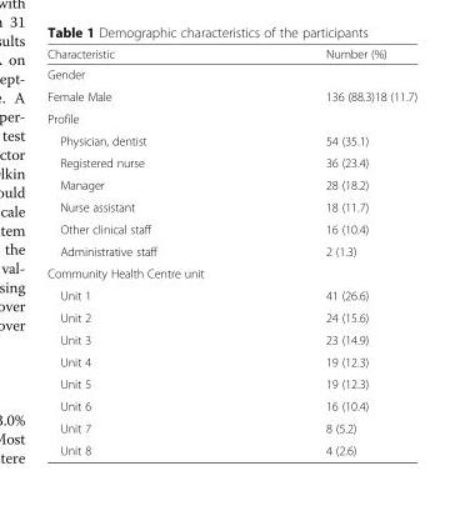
<table><thead><tr><td>Characteristic</td><td>Number (%)</td></tr></thead><tbody><tr><td colspan="2">Gender</td></tr><tr><td>Female Male</td><td>136 (88.3)18 (11.7)</td></tr><tr><td colspan="2">Profile</td></tr><tr><td>Physician, dentist</td><td>54 (35.1)</td></tr><tr><td>Registered nurse</td><td>36 (23.4)</td></tr><tr><td>Manager</td><td>28 (18.2)</td></tr><tr><td>Nurse assistant</td><td>18 (11.7)</td></tr><tr><td>Other clinical staff</td><td>16 (10.4)</td></tr><tr><td>Administrative staff</td><td>2 (1.3)</td></tr><tr><td colspan="2">Community Health Centre unit</td></tr><tr><td>Unit 1</td><td>41 (26.6)</td></tr><tr><td>Unit 2</td><td>24 (15.6)</td></tr><tr><td>Unit 3</td><td>23 (14.9)</td></tr><tr><td>Unit 4</td><td>19 (12.3)</td></tr><tr><td>Unit 5</td><td>19 (12.3)</td></tr><tr><td>Unit 6</td><td>16 (10.4)</td></tr><tr><td>Unit 7</td><td>8 (5.2)</td></tr><tr><td>Unit 8</td><td>4 (2.6)</td></tr></tbody></table>